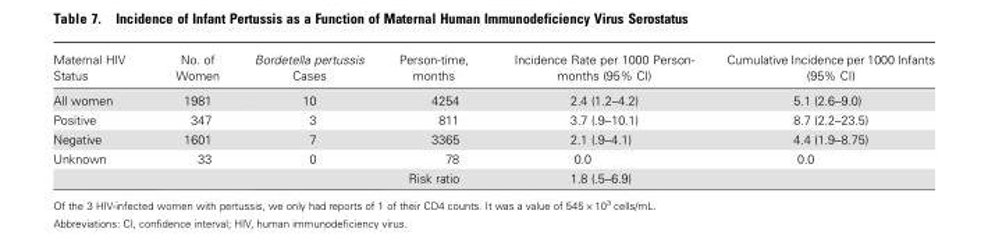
<table><thead><tr><td>Maternal HIV Status</td><td>No. of Women</td><td>Bordetella pertussis Cases</td><td>Person-time, months</td><td>Incidence Rate per 1000 Person- months (95% CI)</td><td>Cumulative Incidence per 1000 Infants (95% CI)</td></tr></thead><tbody><tr><td>All women</td><td>1981</td><td>10</td><td>4254</td><td>2.4 (1.2–4.2)</td><td>5.1 (2.6–9.0)</td></tr><tr><td>Positive</td><td>347</td><td>3</td><td>811</td><td>3.7 (.9–10.1)</td><td>8.7 (2.2–23.5)</td></tr><tr><td>Negative</td><td>1601</td><td>7</td><td>3365</td><td>2.1 (.9–4.1)</td><td>4.4 (1.9–8.75)</td></tr><tr><td rowspan="2">Unknown</td><td>33</td><td>0</td><td>78</td><td>0.0</td><td>0.0</td></tr><tr><td></td><td></td><td>Risk ratio</td><td>1.8 (.5–6.9)</td><td></td></tr></tbody></table>